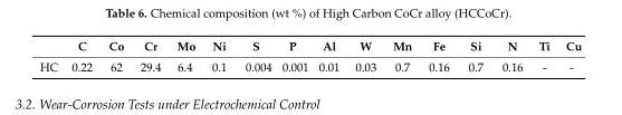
<table><thead><tr><td></td><td>C</td><td>Co</td><td>Cr</td><td>Mo</td><td>Ni</td><td>S</td><td>P</td><td>Al</td><td>W</td><td>Mn</td><td>Fe</td><td>Si</td><td>N</td><td>Ti</td><td>Cu</td></tr></thead><tbody><tr><td>HC</td><td>0.22</td><td>62</td><td>29.4</td><td>6.4</td><td>0.1</td><td>0.004</td><td>0.001</td><td>0.01</td><td>0.03</td><td>0.7</td><td>0.16</td><td>0.7</td><td>0.16</td><td>-</td><td>-</td></tr></tbody></table>